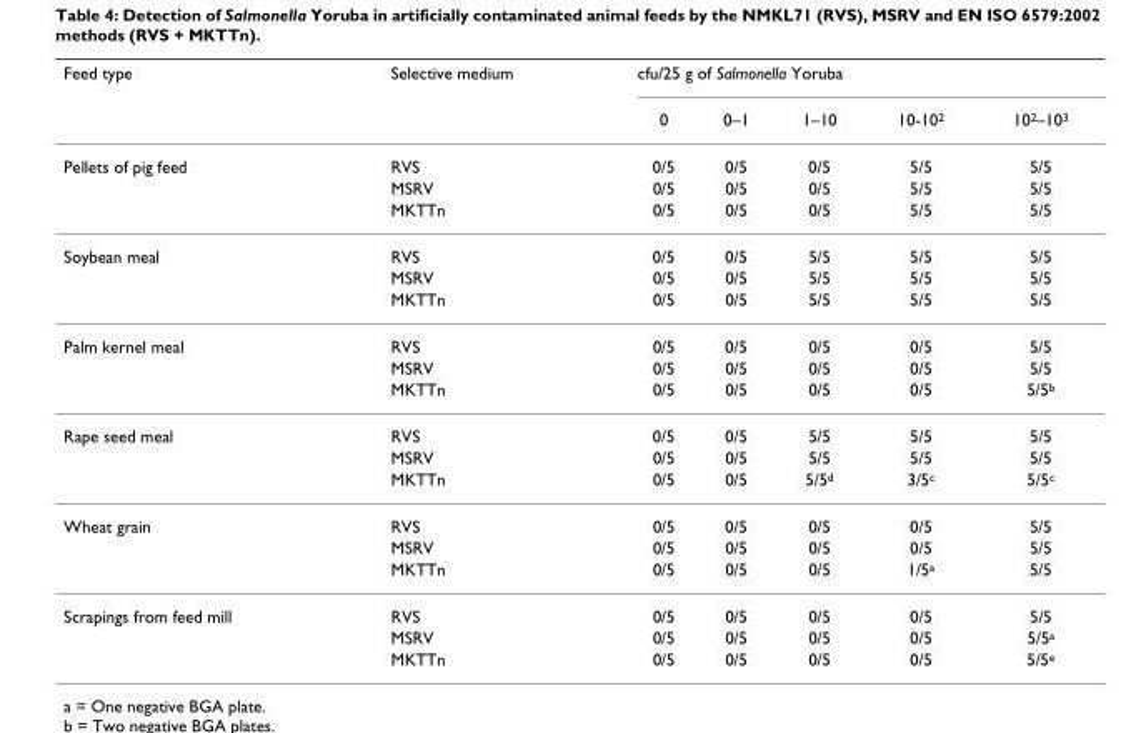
<table><thead><tr><td rowspan="2">Feed type</td><td rowspan="2">Selective medium</td><td colspan="5">cfu/25 g of Salmonella Yoruba</td></tr><tr><td>0</td><td>0–1</td><td>1–10</td><td>10-10<sup>2</sup></td><td>10<sup>2</sup>–10<sup>3</sup></td></tr></thead><tbody><tr><td rowspan="3">Pellets of pig feed</td><td>RVS</td><td>0/5</td><td>0/5</td><td>0/5</td><td>5/5</td><td>5/5</td></tr><tr><td>MSRV</td><td>0/5</td><td>0/5</td><td>0/5</td><td>5/5</td><td>5/5</td></tr><tr><td>MKTTn</td><td>0/5</td><td>0/5</td><td>0/5</td><td>5/5</td><td>5/5</td></tr><tr><td rowspan="3">Soybean meal</td><td>RVS</td><td>0/5</td><td>0/5</td><td>5/5</td><td>5/5</td><td>5/5</td></tr><tr><td>MSRV</td><td>0/5</td><td>0/5</td><td>5/5</td><td>5/5</td><td>5/5</td></tr><tr><td>MKTTn</td><td>0/5</td><td>0/5</td><td>5/5</td><td>5/5</td><td>5/5</td></tr><tr><td rowspan="3">Palm kernel meal</td><td>RVS</td><td>0/5</td><td>0/5</td><td>0/5</td><td>0/5</td><td>5/5</td></tr><tr><td>MSRV</td><td>0/5</td><td>0/5</td><td>0/5</td><td>0/5</td><td>5/5</td></tr><tr><td>MKTTn</td><td>0/5</td><td>0/5</td><td>0/5</td><td>0/5</td><td>5/5<sup>b</sup></td></tr><tr><td rowspan="3">Rape seed meal</td><td>RVS</td><td>0/5</td><td>0/5</td><td>5/5</td><td>5/5</td><td>5/5</td></tr><tr><td>MSRV</td><td>0/5</td><td>0/5</td><td>5/5</td><td>5/5</td><td>5/5</td></tr><tr><td>MKTTn</td><td>0/5</td><td>0/5</td><td>5/5<sup>d</sup></td><td>3/5c</td><td>5/5<sup>c</sup></td></tr><tr><td rowspan="3">Wheat grain</td><td>RVS</td><td>0/5</td><td>0/5</td><td>0/5</td><td>0/5</td><td>5/5</td></tr><tr><td>MSRV</td><td>0/5</td><td>0/5</td><td>0/5</td><td>0/5</td><td>5/5</td></tr><tr><td>MKTTn</td><td>0/5</td><td>0/5</td><td>0/5</td><td>1/5a</td><td>5/5</td></tr><tr><td rowspan="3">Scrapings from feed mill</td><td>RVS</td><td>0/5</td><td>0/5</td><td>0/5</td><td>0/5</td><td>5/5</td></tr><tr><td>MSRV</td><td>0/5</td><td>0/5</td><td>0/5</td><td>0/5</td><td>5/5<sup>a</sup></td></tr><tr><td>MKTTn</td><td>0/5</td><td>0/5</td><td>0/5</td><td>0/5</td><td>5/5<sup>e</sup></td></tr></tbody></table>